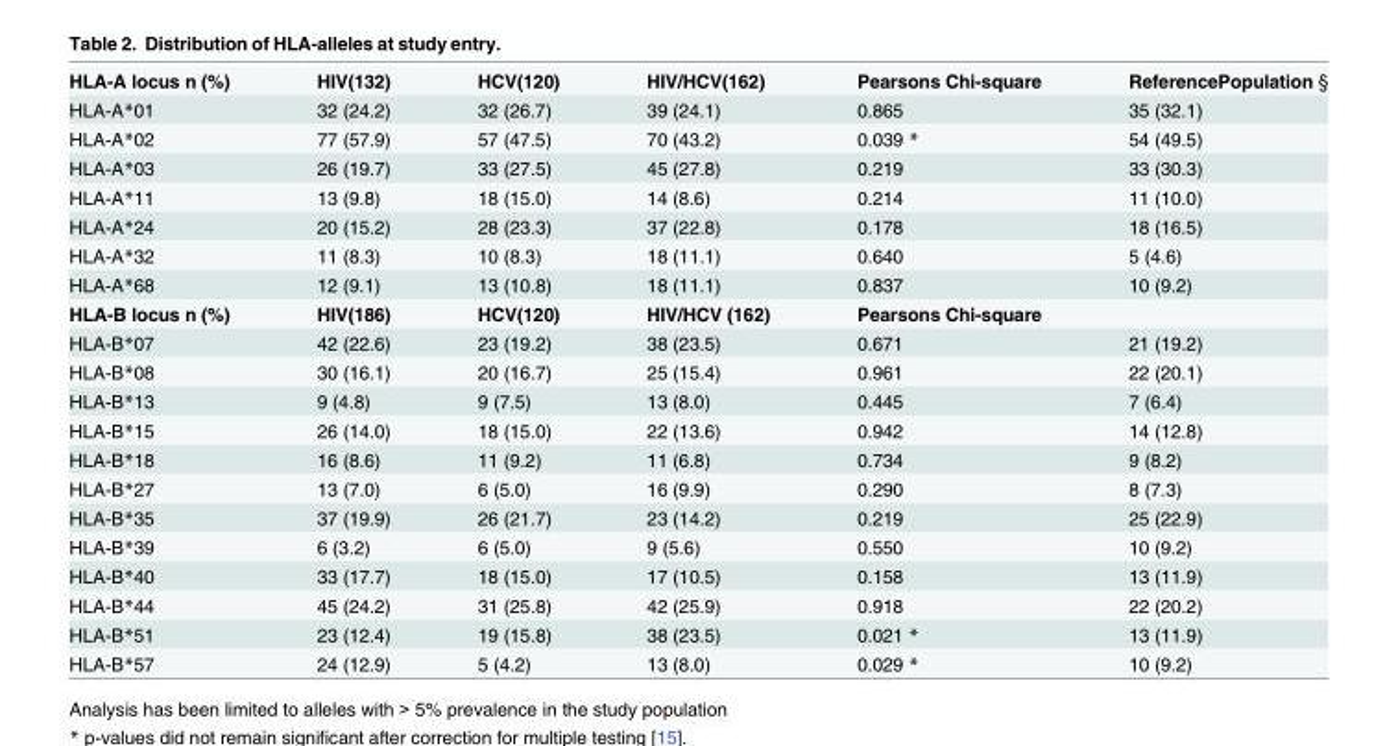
<table><tbody><tr><td>HLA-A locus n (%)</td><td>HIV(132)</td><td>HCV(120)</td><td>HIV/HCV(162)</td><td>Pearsons Chi-square</td><td>ReferencePopulation §</td></tr><tr><td>HLA-A*01</td><td>32 (24.2)</td><td>32 (26.7)</td><td>39 (24.1)</td><td>0.865</td><td>35 (32.1)</td></tr><tr><td>HLA-A*02</td><td>77 (57.9)</td><td>57 (47.5)</td><td>70 (43.2)</td><td>0.039 *</td><td>54 (49.5)</td></tr><tr><td>HLA-A*03</td><td>26 (19.7)</td><td>33 (27.5)</td><td>45 (27.8)</td><td>0.219</td><td>33 (30.3)</td></tr><tr><td>HLA-A*11</td><td>13 (9.8)</td><td>18 (15.0)</td><td>14 (8.6)</td><td>0.214</td><td>11 (10.0)</td></tr><tr><td>HLA-A*24</td><td>20 (15.2)</td><td>28 (23.3)</td><td>37 (22.8)</td><td>0.178</td><td>18 (16.5)</td></tr><tr><td>HLA-A*32</td><td>11 (8.3)</td><td>10 (8.3)</td><td>18 (11.1)</td><td>0.640</td><td>5 (4.6)</td></tr><tr><td>HLA-A*68</td><td>12 (9.1)</td><td>13 (10.8)</td><td>18 (11.1)</td><td>0.837</td><td>10 (9.2)</td></tr><tr><td>HLA-B locus n (%)</td><td>HIV(186)</td><td>HCV(120)</td><td>HIV/HCV (162)</td><td>Pearsons Chi-square</td><td></td></tr><tr><td>HLA-B*07</td><td>42 (22.6)</td><td>23 (19.2)</td><td>38 (23.5)</td><td>0.671</td><td>21 (19.2)</td></tr><tr><td>HLA-B*08</td><td>30 (16.1)</td><td>20 (16.7)</td><td>25 (15.4)</td><td>0.961</td><td>22 (20.1)</td></tr><tr><td>HLA-B*13</td><td>9 (4.8)</td><td>9 (7.5)</td><td>13 (8.0)</td><td>0.445</td><td>7 (6.4)</td></tr><tr><td>HLA-B*15</td><td>26 (14.0)</td><td>18 (15.0)</td><td>22 (13.6)</td><td>0.942</td><td>14 (12.8)</td></tr><tr><td>HLA-B*18</td><td>16 (8.6)</td><td>11 (9.2)</td><td>11 (6.8)</td><td>0.734</td><td>9 (8.2)</td></tr><tr><td>HLA-B*27</td><td>13 (7.0)</td><td>6 (5.0)</td><td>16 (9.9)</td><td>0.290</td><td>8 (7.3)</td></tr><tr><td>HLA-B*35</td><td>37 (19.9)</td><td>26 (21.7)</td><td>23 (14.2)</td><td>0.219</td><td>25 (22.9)</td></tr><tr><td>HLA-B*39</td><td>6 (3.2)</td><td>6 (5.0)</td><td>9 (5.6)</td><td>0.550</td><td>10 (9.2)</td></tr><tr><td>HLA-B*40</td><td>33 (17.7)</td><td>18 (15.0)</td><td>17 (10.5)</td><td>0.158</td><td>13 (11.9)</td></tr><tr><td>HLA-B*44</td><td>45 (24.2)</td><td>31 (25.8)</td><td>42 (25.9)</td><td>0.918</td><td>22 (20.2)</td></tr><tr><td>HLA-B*51</td><td>23 (12.4)</td><td>19 (15.8)</td><td>38 (23.5)</td><td>0.021 *</td><td>13 (11.9)</td></tr><tr><td>HLA-B*57</td><td>24 (12.9)</td><td>5 (4.2)</td><td>13 (8.0)</td><td>0.029 *</td><td>10 (9.2)</td></tr></tbody></table>